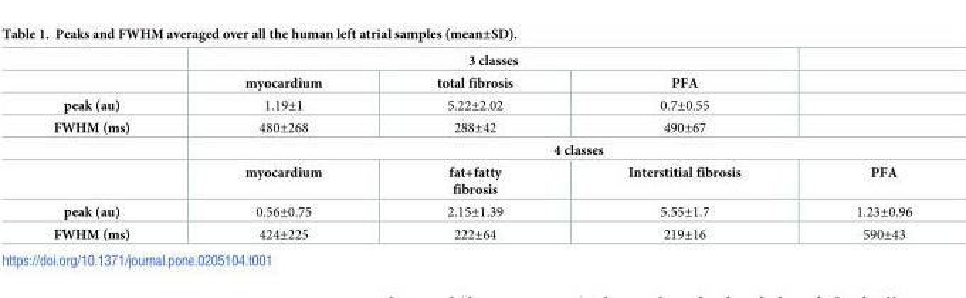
<table><thead><tr><td rowspan="2"></td><td colspan="3">3 classes</td><td rowspan="2"></td></tr><tr><td>myocardium</td><td>total fibrosis</td><td>PFA</td></tr></thead><tbody><tr><td>peak (au)</td><td>1.19±1</td><td>5.22±2.02</td><td>0.7±0.55</td><td></td></tr><tr><td rowspan="3">FWHM (ms)</td><td>480±268</td><td>288±42</td><td>490±67</td><td></td></tr><tr><td colspan="4">4 classes</td></tr><tr><td>myocardium</td><td>fat+fatty fibrosis</td><td>Interstitial fibrosis</td><td>PFA</td></tr><tr><td>peak (au)</td><td>0.56±0.75</td><td>2.15±1.39</td><td>5.55±1.7</td><td>1.23±0.96</td></tr><tr><td>FWHM (ms)</td><td>424±225</td><td>222±64</td><td>219±16</td><td>590±43</td></tr></tbody></table>